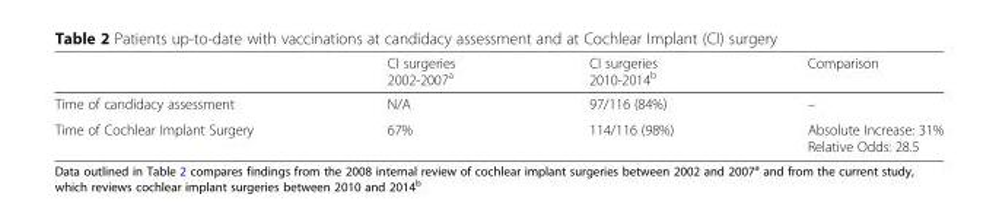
<table><thead><tr><td></td><td>CI surgeries 2002-2007<sup>a</sup></td><td>CI surgeries 2010-2014<sup>b</sup></td><td>Comparison</td></tr></thead><tbody><tr><td>Time of candidacy assessment</td><td>N/A</td><td>97/116 (84%)</td><td>–</td></tr><tr><td>Time of Cochlear Implant Surgery</td><td>67%</td><td>114/116 (98%)</td><td>Absolute Increase: 31% Relative Odds: 28.5</td></tr></tbody></table>